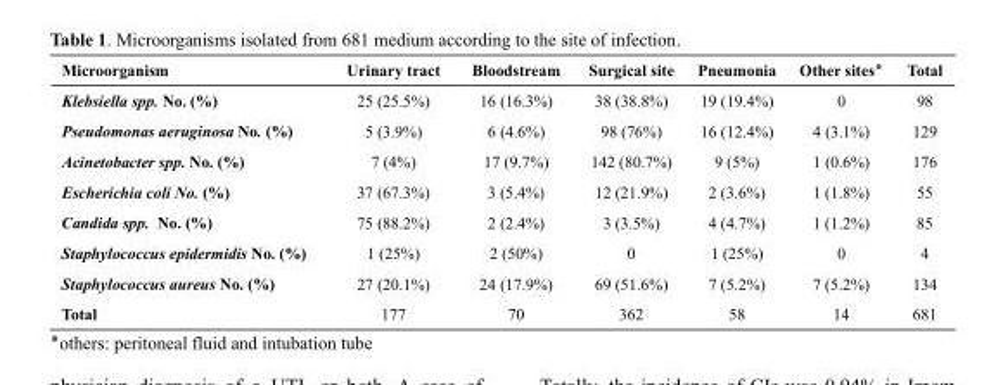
<table><thead><tr><td>Microorganism</td><td>Urinary tract</td><td>Bloodstream</td><td>Surgical site</td><td>Pneumonia</td><td>Other sites٭</td><td>Total</td></tr></thead><tbody><tr><td>Klebsiella spp. No. (%)</td><td>25 (25.5%)</td><td>16 (16.3%)</td><td>38 (38.8%)</td><td>19 (19.4%)</td><td>0</td><td>98</td></tr><tr><td>Pseudomonas aeruginosa No. (%)</td><td>5 (3.9%)</td><td>6 (4.6%)</td><td>98 (76%)</td><td>16 (12.4%)</td><td>4 (3.1%)</td><td>129</td></tr><tr><td>Acinetobacter spp. No. (%)</td><td>7 (4%)</td><td>17 (9.7%)</td><td>142 (80.7%)</td><td>9 (5%)</td><td>1 (0.6%)</td><td>176</td></tr><tr><td>Escherichia coli No. (%)</td><td>37 (67.3%)</td><td>3 (5.4%)</td><td>12 (21.9%)</td><td>2 (3.6%)</td><td>1 (1.8%)</td><td>55</td></tr><tr><td>Candida spp. No. (%)</td><td>75 (88.2%)</td><td>2 (2.4%)</td><td>3 (3.5%)</td><td>4 (4.7%)</td><td>1 (1.2%)</td><td>85</td></tr><tr><td>Staphylococcus epidermidis No. (%)</td><td>1 (25%)</td><td>2 (50%)</td><td>0</td><td>1 (25%)</td><td>0</td><td>4</td></tr><tr><td>Staphylococcus aureus No. (%)</td><td>27 (20.1%)</td><td>24 (17.9%)</td><td>69 (51.6%)</td><td>7 (5.2%)</td><td>7 (5.2%)</td><td>134</td></tr><tr><td>Total</td><td>177</td><td>70</td><td>362</td><td>58</td><td>14</td><td>681</td></tr></tbody></table>